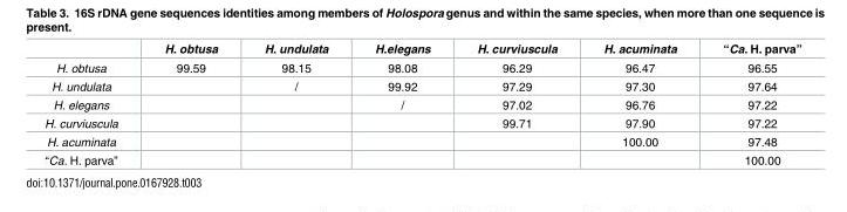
<table><thead><tr><td></td><td>H. obtusa</td><td>H. undulata</td><td>H.elegans</td><td>H. curviuscula</td><td>H. acuminata</td><td>“Ca. H. parva”</td></tr></thead><tbody><tr><td>H. obtusa</td><td>99.59</td><td>98.15</td><td>98.08</td><td>96.29</td><td>96.47</td><td>96.55</td></tr><tr><td>H. undulata</td><td></td><td>/</td><td>99.92</td><td>97.29</td><td>97.30</td><td>97.64</td></tr><tr><td>H. elegans</td><td></td><td></td><td>/</td><td>97.02</td><td>96.76</td><td>97.22</td></tr><tr><td>H. curviuscula</td><td></td><td></td><td></td><td>99.71</td><td>97.90</td><td>97.22</td></tr><tr><td>H. acuminata</td><td></td><td></td><td></td><td></td><td>100.00</td><td>97.48</td></tr><tr><td>“Ca. H. parva”</td><td></td><td></td><td></td><td></td><td></td><td>100.00</td></tr></tbody></table>